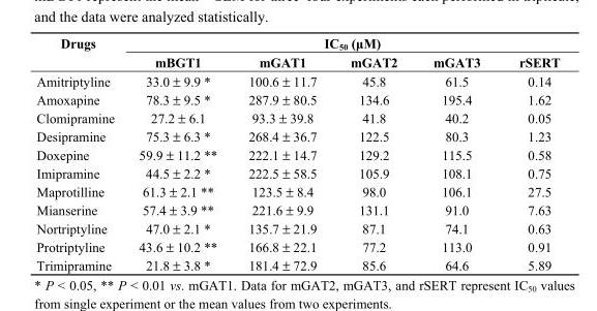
<table><thead><tr><td rowspan="2">Drugs</td><td colspan="5">IC<sub>50</sub> (μM)</td></tr><tr><td>mBGT1</td><td>mGAT1</td><td>mGAT2</td><td>mGAT3</td><td>rSERT</td></tr></thead><tbody><tr><td>Amitriptyline</td><td>33.0 ± 9.9 *</td><td>100.6 ± 11.7</td><td>45.8</td><td>61.5</td><td>0.14</td></tr><tr><td>Amoxapine</td><td>78.3 ± 9.5 *</td><td>287.9 ± 80.5</td><td>134.6</td><td>195.4</td><td>1.62</td></tr><tr><td>Clomipramine</td><td>27.2 ± 6.1</td><td>93.3 ± 39.8</td><td>41.8</td><td>40.2</td><td>0.05</td></tr><tr><td>Desipramine</td><td>75.3 ± 6.3 *</td><td>268.4 ± 36.7</td><td>122.5</td><td>80.3</td><td>1.23</td></tr><tr><td>Doxepine</td><td>59.9 ± 11.2 **</td><td>222.1 ± 14.7</td><td>129.2</td><td>115.5</td><td>0.58</td></tr><tr><td>Imipramine</td><td>44.5 ± 2.2 *</td><td>222.5 ± 58.5</td><td>105.9</td><td>108.1</td><td>0.75</td></tr><tr><td>Maprotilline</td><td>61.3 ± 2.1 **</td><td>123.5 ± 8.4</td><td>98.0</td><td>106.1</td><td>27.5</td></tr><tr><td>Mianserine</td><td>57.4 ± 3.9 **</td><td>221.6 ± 9.9</td><td>131.1</td><td>91.0</td><td>7.63</td></tr><tr><td>Nortriptyline</td><td>47.0 ± 2.1 *</td><td>135.7 ± 21.9</td><td>87.1</td><td>74.1</td><td>0.63</td></tr><tr><td>Protriptyline</td><td>43.6 ± 10.2 **</td><td>166.8 ± 22.1</td><td>77.2</td><td>113.0</td><td>0.91</td></tr><tr><td>Trimipramine</td><td>21.8 ± 3.8 *</td><td>181.4 ± 72.9</td><td>85.6</td><td>64.6</td><td>5.89</td></tr></tbody></table>